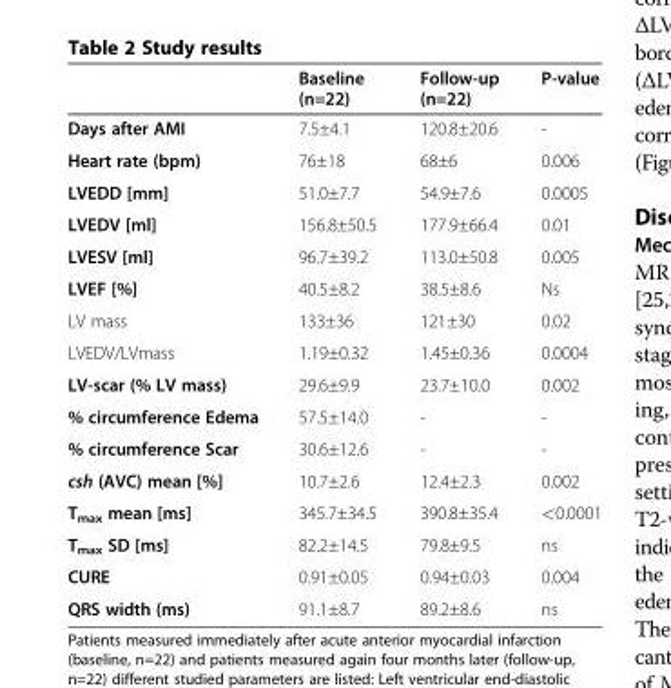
<table><thead><tr><td></td><td>Baseline (n=22)</td><td>Follow-up (n=22)</td><td>P-value</td></tr></thead><tbody><tr><td>Days after AMI</td><td>7.5±4.1</td><td>120.8±20.6</td><td>-</td></tr><tr><td>Heart rate (bpm)</td><td>76±18</td><td>68±6</td><td>0.006</td></tr><tr><td>LVEDD [mm]</td><td>51.0±7.7</td><td>54.9±7.6</td><td>0.0005</td></tr><tr><td>LVEDV [ml]</td><td>156.8±50.5</td><td>177.9±66.4</td><td>0.01</td></tr><tr><td>LVESV [ml]</td><td>96.7±39.2</td><td>113.0±50.8</td><td>0.005</td></tr><tr><td>LVEF [%]</td><td>40.5±8.2</td><td>38.5±8.6</td><td>Ns</td></tr><tr><td>LV mass</td><td>133±36</td><td>121±30</td><td>0.02</td></tr><tr><td>LVEDV/LVmass</td><td>1.19±0.32</td><td>1.45±0.36</td><td>0.0004</td></tr><tr><td>LV-scar (% LV mass)</td><td>29.6±9.9</td><td>23.7±10.0</td><td>0.002</td></tr><tr><td>% circumference Edema</td><td>57.5±14.0</td><td>-</td><td>-</td></tr><tr><td>% circumference Scar</td><td>30.6±12.6</td><td>-</td><td>-</td></tr><tr><td>csh (AVC) mean [%]</td><td>10.7±2.6</td><td>12.4±2.3</td><td>0.002</td></tr><tr><td>T<sub>max</sub> mean [ms]</td><td>345.7±34.5</td><td>390.8±35.4</td><td>&lt;0.0001</td></tr><tr><td>T<sub>max</sub> SD [ms]</td><td>82.2±14.5</td><td>79.8±9.5</td><td>ns</td></tr><tr><td>CURE</td><td>0.91±0.05</td><td>0.94±0.03</td><td>0.004</td></tr><tr><td>QRS width (ms)</td><td>91.1±8.7</td><td>89.2±8.6</td><td>ns</td></tr></tbody></table>